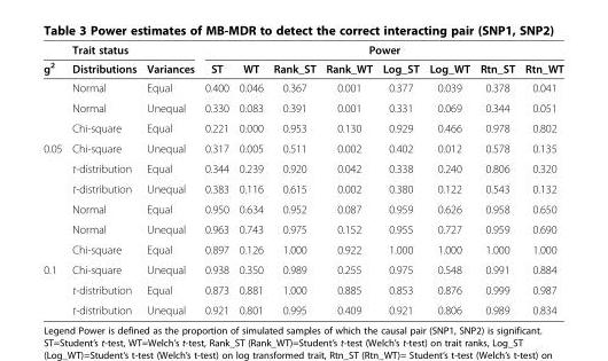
<table><thead><tr><td rowspan="2">g<sup>2</sup></td><td colspan="2">Trait status</td><td colspan="8">Power</td></tr><tr><td>Distributions</td><td>Variances</td><td>ST</td><td>WT</td><td>Rank_ST</td><td>Rank_WT</td><td>Log_ST</td><td>Log_WT</td><td>Rtn_ST</td><td>Rtn_WT</td></tr></thead><tbody><tr><td></td><td>Normal</td><td>Equal</td><td>0.400</td><td>0.046</td><td>0.367</td><td>0.001</td><td>0.377</td><td>0.039</td><td>0.378</td><td>0.041</td></tr><tr><td></td><td>Normal</td><td>Unequal</td><td>0.330</td><td>0.083</td><td>0.391</td><td>0.001</td><td>0.331</td><td>0.069</td><td>0.344</td><td>0.051</td></tr><tr><td></td><td>Chi-square</td><td>Equal</td><td>0.221</td><td>0.000</td><td>0.953</td><td>0.130</td><td>0.929</td><td>0.466</td><td>0.978</td><td>0.802</td></tr><tr><td rowspan="6">0.05</td><td>Chi-square</td><td>Unequal</td><td>0.317</td><td>0.005</td><td>0.511</td><td>0.002</td><td>0.402</td><td>0.012</td><td>0.578</td><td>0.135</td></tr><tr><td>t-distribution</td><td>Equal</td><td>0.344</td><td>0.239</td><td>0.920</td><td>0.042</td><td>0.338</td><td>0.240</td><td>0.806</td><td>0.320</td></tr><tr><td>t-distribution</td><td>Unequal</td><td>0.383</td><td>0.116</td><td>0.615</td><td>0.002</td><td>0.380</td><td>0.122</td><td>0.543</td><td>0.132</td></tr><tr><td>Normal</td><td>Equal</td><td>0.950</td><td>0.634</td><td>0.952</td><td>0.087</td><td>0.959</td><td>0.626</td><td>0.958</td><td>0.650</td></tr><tr><td>Normal</td><td>Unequal</td><td>0.963</td><td>0.743</td><td>0.975</td><td>0.152</td><td>0.955</td><td>0.727</td><td>0.959</td><td>0.690</td></tr><tr><td>Chi-square</td><td>Equal</td><td>0.897</td><td>0.126</td><td>1.000</td><td>0.922</td><td>1.000</td><td>1.000</td><td>1.000</td><td>1.000</td></tr><tr><td rowspan="3">0.1</td><td>Chi-square</td><td>Unequal</td><td>0.938</td><td>0.350</td><td>0.989</td><td>0.255</td><td>0.975</td><td>0.548</td><td>0.991</td><td>0.884</td></tr><tr><td>t-distribution</td><td>Equal</td><td>0.873</td><td>0.881</td><td>1.000</td><td>0.885</td><td>0.853</td><td>0.876</td><td>0.999</td><td>0.987</td></tr><tr><td>t-distribution</td><td>Unequal</td><td>0.921</td><td>0.801</td><td>0.995</td><td>0.409</td><td>0.921</td><td>0.806</td><td>0.989</td><td>0.834</td></tr></tbody></table>